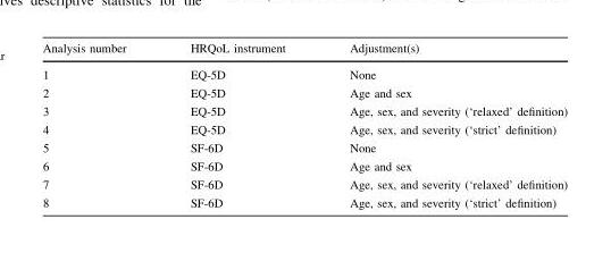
<table><thead><tr><td>Analysis number</td><td>HRQoL instrument</td><td>Adjustment(s)</td></tr></thead><tbody><tr><td>1</td><td>EQ-5D</td><td>None</td></tr><tr><td>2</td><td>EQ-5D</td><td>Age and sex</td></tr><tr><td>3</td><td>EQ-5D</td><td>Age, sex, and severity (‘relaxed’ definition)</td></tr><tr><td>4</td><td>EQ-5D</td><td>Age, sex, and severity (‘strict’ definition)</td></tr><tr><td>5</td><td>SF-6D</td><td>None</td></tr><tr><td>6</td><td>SF-6D</td><td>Age and sex</td></tr><tr><td>7</td><td>SF-6D</td><td>Age, sex, and severity (‘relaxed’ definition)</td></tr><tr><td>8</td><td>SF-6D</td><td>Age, sex, and severity (‘strict’ definition)</td></tr></tbody></table>